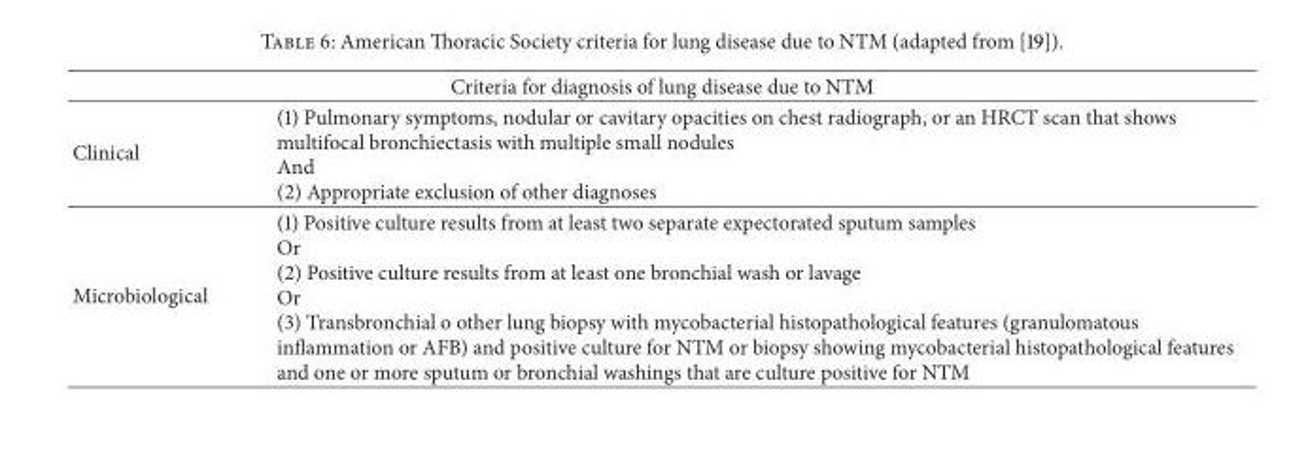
<table><thead><tr><td colspan="2">Criteria for diagnosis of lung disease due to NTM</td></tr><tr><td>Clinical</td><td>(1) Pulmonary symptoms, nodular or cavitary opacities on chest radiograph, or an HRCT scan that shows multifocal bronchiectasis with multiple small nodules And (2) Appropriate exclusion of other diagnoses</td></tr></thead><tbody><tr><td>Microbiological</td><td>(1) Positive culture results from at least two separate expectorated sputum samples Or (2) Positive culture results from at least one bronchial wash or lavage Or (3) Transbronchial o other lung biopsy with mycobacterial histopathological features (granulomatous inflammation or AFB) and positive culture for NTM or biopsy showing mycobacterial histopathological features and one or more sputum or bronchial washings that are culture positive for NTM</td></tr></tbody></table>